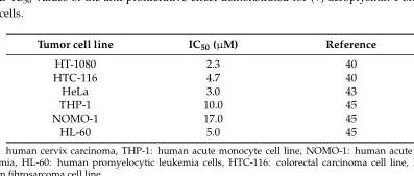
<table><thead><tr><td>Tumor cell line</td><td>IC<sub>50</sub> (µM)</td><td>Reference</td></tr></thead><tbody><tr><td>HT-1080</td><td>2.3</td><td>40</td></tr><tr><td>HTC-116</td><td>4.7</td><td>40</td></tr><tr><td>HeLa</td><td>3.0</td><td>43</td></tr><tr><td>THP-1</td><td>10.0</td><td>45</td></tr><tr><td>NOMO-1</td><td>17.0</td><td>45</td></tr><tr><td>HL-60</td><td>5.0</td><td>45</td></tr></tbody></table>